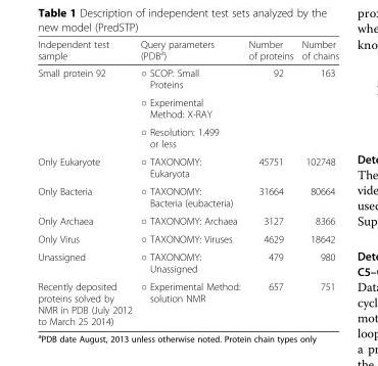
<table><thead><tr><td>Independent test sample</td><td>Query parameters (PDB<sup>a</sup>)</td><td>Number of proteins</td><td>Number of chains</td></tr></thead><tbody><tr><td rowspan="3">Small protein 92</td><td>○ SCOP: Small Proteins</td><td>92</td><td>163</td></tr><tr><td>○ Experimental Method: X-RAY</td><td></td><td></td></tr><tr><td>○ Resolution: 1.499 or less</td><td></td><td></td></tr><tr><td>Only Eukaryote</td><td>○ TAXONOMY: Eukaryota</td><td>45751</td><td>102748</td></tr><tr><td>Only Bacteria</td><td>○ TAXONOMY: Bacteria (eubacteria)</td><td>31664</td><td>80664</td></tr><tr><td>Only Archaea</td><td>○ TAXONOMY: Archaea</td><td>3127</td><td>8366</td></tr><tr><td>Only Virus</td><td>○ TAXONOMY: Viruses</td><td>4629</td><td>18642</td></tr><tr><td>Unassigned</td><td>○ TAXONOMY: Unassigned</td><td>479</td><td>980</td></tr><tr><td>Recently deposited proteins solved by NMR in PDB (July 2012 to March 25 2014)</td><td>○ Experimental Method: solution NMR</td><td>657</td><td>751</td></tr></tbody></table>